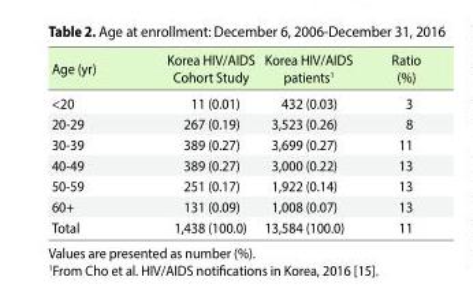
<table><thead><tr><td>Age (yr)</td><td>Korea HIV/AIDS Cohort Study</td><td>Korea HIV/AIDS patients<sup>1</sup></td><td>Ratio (%)</td></tr></thead><tbody><tr><td>&lt;20</td><td>11 (0.01)</td><td>432 (0.03)</td><td>3</td></tr><tr><td>20-29</td><td>267 (0.19)</td><td>3,523 (0.26)</td><td>8</td></tr><tr><td>30-39</td><td>389 (0.27)</td><td>3,699 (0.27)</td><td>11</td></tr><tr><td>40-49</td><td>389 (0.27)</td><td>3,000 (0.22)</td><td>13</td></tr><tr><td>50-59</td><td>251 (0.17)</td><td>1,922 (0.14)</td><td>13</td></tr><tr><td>60+</td><td>131 (0.09)</td><td>1,008 (0.07)</td><td>13</td></tr><tr><td>Total</td><td>1,438 (100.0)</td><td>13,584 (100.0)</td><td>11</td></tr></tbody></table>